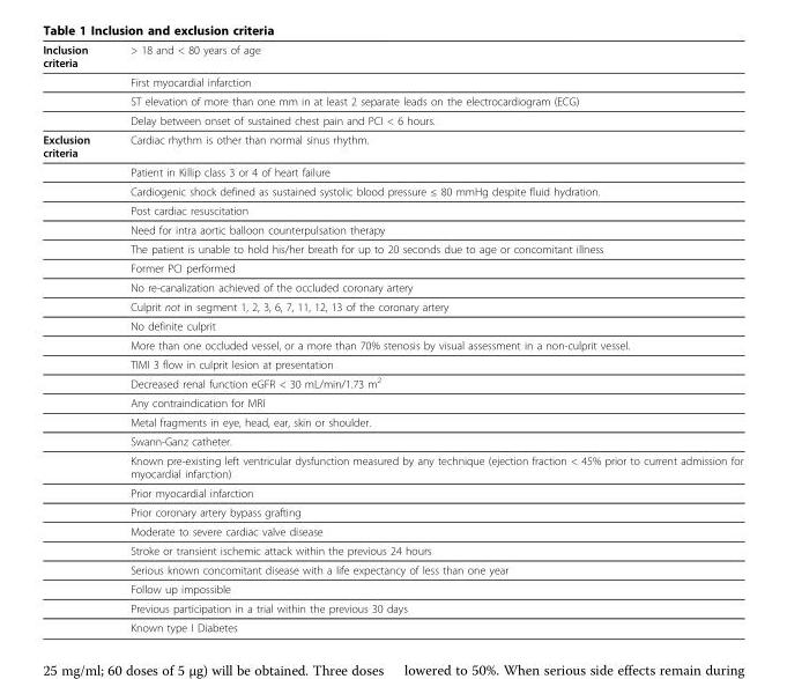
<table><thead><tr><td>Inclusion criteria</td><td>&gt; 18 and &lt; 80 years of age</td></tr></thead><tbody><tr><td></td><td>First myocardial infarction</td></tr><tr><td></td><td>ST elevation of more than one mm in at least 2 separate leads on the electrocardiogram (ECG)</td></tr><tr><td></td><td>Delay between onset of sustained chest pain and PCI &lt; 6 hours.</td></tr><tr><td rowspan="25">Exclusion criteria</td><td>Cardiac rhythm is other than normal sinus rhythm.</td></tr><tr><td>Patient in Killip class 3 or 4 of heart failure</td></tr><tr><td>Cardiogenic shock defined as sustained systolic blood pressure ≤ 80 mmHg despite fluid hydration.</td></tr><tr><td>Post cardiac resuscitation</td></tr><tr><td>Need for intra aortic balloon counterpulsation therapy</td></tr><tr><td>The patient is unable to hold his/her breath for up to 20 seconds due to age or concomitant illness</td></tr><tr><td>Former PCI performed</td></tr><tr><td>No re-canalization achieved of the occluded coronary artery</td></tr><tr><td>Culprit not in segment 1, 2, 3, 6, 7, 11, 12, 13 of the coronary artery</td></tr><tr><td>No definite culprit</td></tr><tr><td>More than one occluded vessel, or a more than 70% stenosis by visual assessment in a non-culprit vessel.</td></tr><tr><td>TIMI 3 flow in culprit lesion at presentation</td></tr><tr><td>Decreased renal function eGFR &lt; 30 mL/min/1.73 m<sup>2</sup></td></tr><tr><td>Any contraindication for MRI</td></tr><tr><td>Metal fragments in eye, head, ear, skin or shoulder.</td></tr><tr><td>Swann-Ganz catheter.</td></tr><tr><td>Known pre-existing left ventricular dysfunction measured by any technique (ejection fraction &lt; 45% prior to current admission for myocardial infarction)</td></tr><tr><td>Prior myocardial infarction</td></tr><tr><td>Prior coronary artery bypass grafting</td></tr><tr><td>Moderate to severe cardiac valve disease</td></tr><tr><td>Stroke or transient ischemic attack within the previous 24 hours</td></tr><tr><td>Serious known concomitant disease with a life expectancy of less than one year</td></tr><tr><td>Follow up impossible</td></tr><tr><td>Previous participation in a trial within the previous 30 days</td></tr><tr><td>Known type I Diabetes</td></tr></tbody></table>